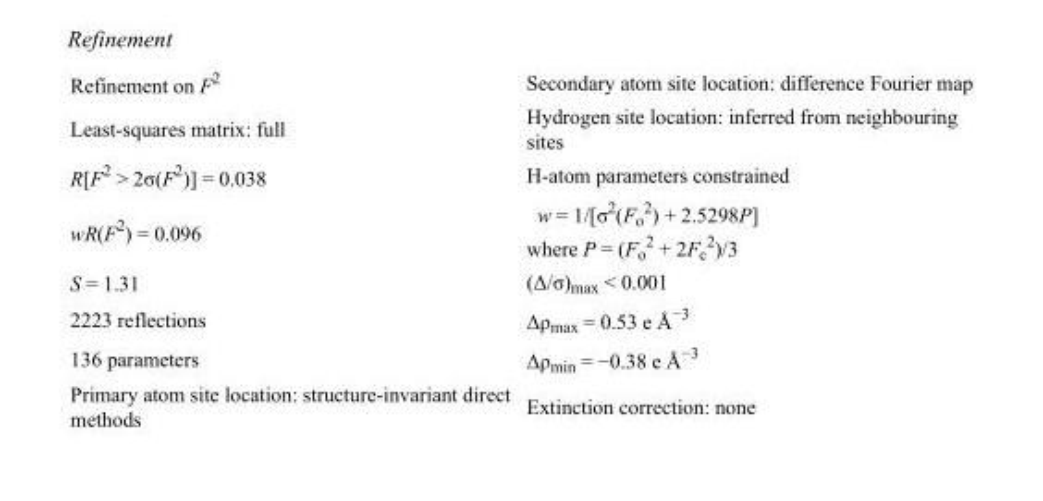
<table><tbody><tr><td>Refinement on F<sup>2</sup></td><td>Secondary atom site location: difference Fourier map</td></tr><tr><td>Least-squares matrix: full</td><td>Hydrogen site location: inferred from neighbouring sites</td></tr><tr><td>R[F<sup>2</sup> &gt; 2σ(F<sup>2</sup>)] = 0.038</td><td>H-atom parameters constrained</td></tr><tr><td>wR(F<sup>2</sup>) = 0.096</td><td>w = 1/[σ<sup>2</sup>(F<sub>o</sub> <sup>2</sup>) + 2.5298P] where P = (F<sub>o</sub> <sup>2</sup> + 2F<sub>c</sub> <sup>2</sup>)/3</td></tr><tr><td>S = 1.31</td><td>(Δ/σ)<sub>max</sub> &lt; 0.001</td></tr><tr><td>2223 reflections</td><td>Δρ<sub>max</sub> = 0.53 e Å<sup>−3</sup></td></tr><tr><td>136 parameters</td><td>Δρ<sub>min</sub> = −0.38 e Å<sup>−3</sup></td></tr><tr><td>Primary atom site location: structure-invariant direct methods</td><td>Extinction correction: none</td></tr></tbody></table>